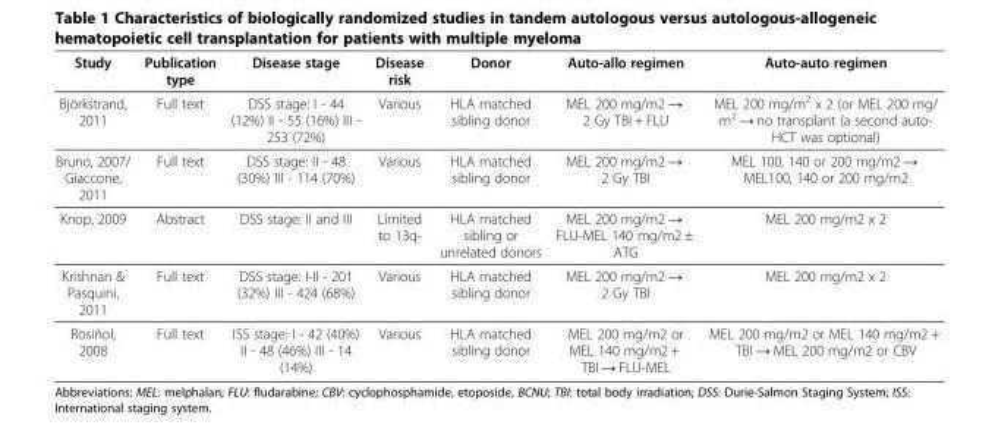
<table><thead><tr><td>Study</td><td>Publication type</td><td>Disease stage</td><td>Disease risk</td><td>Donor</td><td>Auto-allo regimen</td><td>Auto-auto regimen</td></tr></thead><tbody><tr><td>Björkstrand, 2011</td><td>Full text</td><td>DSS stage: I - 44 (12%) II - 55 (16%) III - 253 (72%)</td><td>Various</td><td>HLA matched sibling donor</td><td>MEL 200 mg/m2 → 2 Gy TBI + FLU</td><td>MEL 200 mg/m<sup>2</sup> x 2 (or MEL 200 mg/ m<sup>2</sup> → no transplant (a second auto- HCT was optional)</td></tr><tr><td>Bruno, 2007/ Giaccone, 2011</td><td>Full text</td><td>DSS stage: II - 48 (30%) III - 114 (70%)</td><td>Various</td><td>HLA matched sibling donor</td><td>MEL 200 mg/m2 → 2 Gy TBI</td><td>MEL 100, 140 or 200 mg/m2 → MEL100, 140 or 200 mg/m2</td></tr><tr><td>Knop, 2009</td><td>Abstract</td><td>DSS stage: II and III</td><td>Limited to 13q-</td><td>HLA matched sibling or unrelated donors</td><td>MEL 200 mg/m2 → FLU-MEL 140 mg/m2 ± ATG</td><td>MEL 200 mg/m2 x 2</td></tr><tr><td>Krishnan &amp; Pasquini, 2011</td><td>Full text</td><td>DSS stage: I-II - 201 (32%) III - 424 (68%)</td><td>Various</td><td>HLA matched sibling donor</td><td>MEL 200 mg/m2 → 2 Gy TBI</td><td>MEL 200 mg/m2 x 2</td></tr><tr><td>Rosiñol, 2008</td><td>Full text</td><td>ISS stage: I - 42 (40%) II - 48 (46%) III - 14 (14%)</td><td>Various</td><td>HLA matched sibling donor</td><td>MEL 200 mg/m2 or MEL 140 mg/m2 + TBI → FLU-MEL</td><td>MEL 200 mg/m2 or MEL 140 mg/m2 + TBI → MEL 200 mg/m2 or CBV</td></tr></tbody></table>